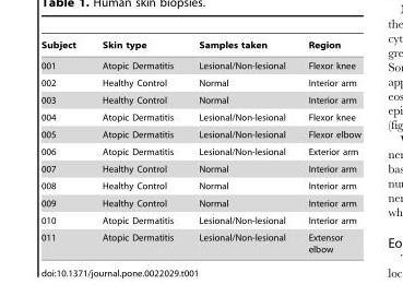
<table><thead><tr><td>Subject</td><td>Skin type</td><td>Samples taken</td><td>Region</td></tr></thead><tbody><tr><td>001</td><td>Atopic Dermatitis</td><td>Lesional/Non-lesional</td><td>Flexor knee</td></tr><tr><td>002</td><td>Healthy Control</td><td>Normal</td><td>Interior arm</td></tr><tr><td>003</td><td>Healthy Control</td><td>Normal</td><td>Interior arm</td></tr><tr><td>004</td><td>Atopic Dermatitis</td><td>Lesional/Non-lesional</td><td>Flexor knee</td></tr><tr><td>005</td><td>Atopic Dermatitis</td><td>Lesional/Non-lesional</td><td>Flexor elbow</td></tr><tr><td>006</td><td>Atopic Dermatitis</td><td>Lesional/Non-lesional</td><td>Exterior arm</td></tr><tr><td>007</td><td>Healthy Control</td><td>Normal</td><td>Interior arm</td></tr><tr><td>008</td><td>Healthy Control</td><td>Normal</td><td>Interior arm</td></tr><tr><td>009</td><td>Healthy Control</td><td>Normal</td><td>Interior arm</td></tr><tr><td>010</td><td>Atopic Dermatitis</td><td>Lesional/Non-lesional</td><td>Interior arm</td></tr><tr><td>011</td><td>Atopic Dermatitis</td><td>Lesional/Non-lesional</td><td>Extensor elbow</td></tr></tbody></table>